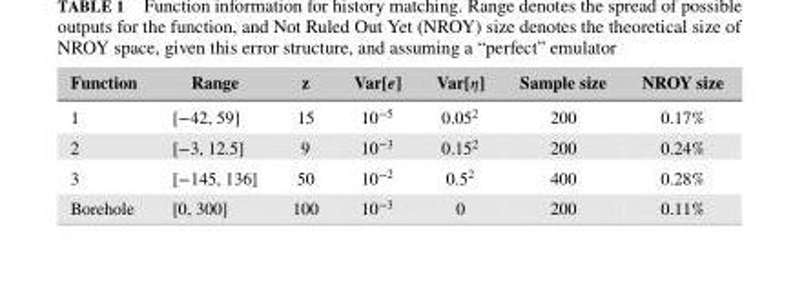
<table><thead><tr><td>Function</td><td>Range</td><td>z</td><td>Var[e]</td><td>Var[𝜂]</td><td>Sample size</td><td>NROY size</td></tr></thead><tbody><tr><td>1</td><td>[−42, 59]</td><td>15</td><td>10<sup>−5</sup></td><td>0.05<sup>2</sup></td><td>200</td><td>0.17%</td></tr><tr><td>2</td><td>[−3, 12.5]</td><td>9</td><td>10<sup>−3</sup></td><td>0.15<sup>2</sup></td><td>200</td><td>0.24%</td></tr><tr><td>3</td><td>[−145, 136]</td><td>50</td><td>10<sup>−2</sup></td><td>0.5<sup>2</sup></td><td>400</td><td>0.28%</td></tr><tr><td>Borehole</td><td>[0, 300]</td><td>100</td><td>10<sup>−3</sup></td><td>0</td><td>200</td><td>0.11%</td></tr></tbody></table>